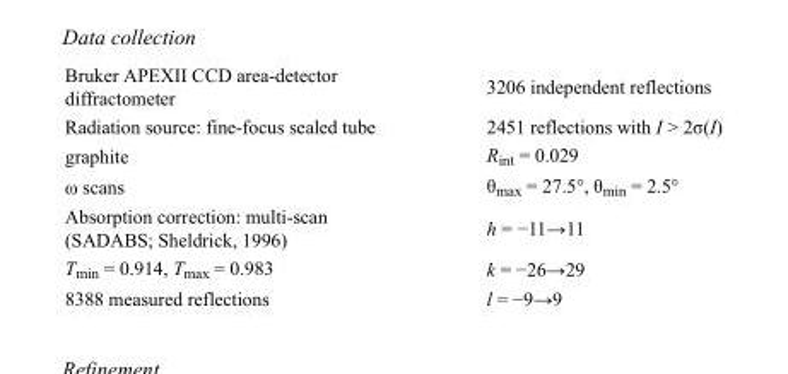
<table><tbody><tr><td>Bruker APEXII CCD area-detector diffractometer</td><td>3206 independent reflections</td></tr><tr><td>Radiation source: fine-focus sealed tube</td><td>2451 reflections with I &gt; 2σ(I)</td></tr><tr><td>graphite</td><td>R<sub>int</sub> = 0.029</td></tr><tr><td>ω scans</td><td>θ<sub>max</sub> = 27.5°, θ<sub>min</sub> = 2.5°</td></tr><tr><td>Absorption correction: multi-scan (SADABS; Sheldrick, 1996)</td><td>h = −11→11</td></tr><tr><td>T<sub>min</sub> = 0.914, T<sub>max</sub> = 0.983</td><td>k = −26→29</td></tr><tr><td>8388 measured reflections</td><td>l = −9→9</td></tr></tbody></table>